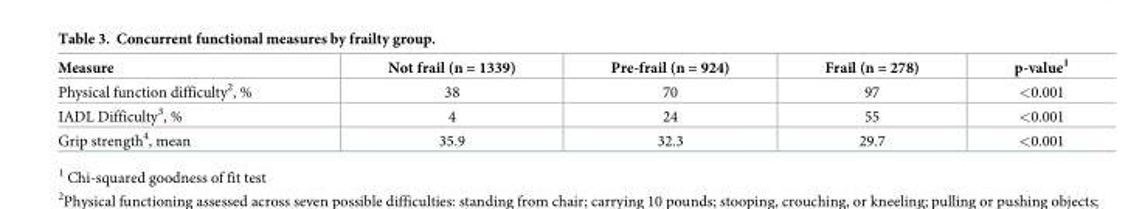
<table><thead><tr><td>Measure</td><td>Not frail (n = 1339)</td><td>Pre-frail (n = 924)</td><td>Frail (n = 278)</td><td>p-value<sup>1</sup></td></tr></thead><tbody><tr><td>Physical function difficulty<sup>2</sup>, %</td><td>38</td><td>70</td><td>97</td><td>&lt;0.001</td></tr><tr><td>IADL Difficulty<sup>3</sup>, %</td><td>4</td><td>24</td><td>55</td><td>&lt;0.001</td></tr><tr><td>Grip strength<sup>4</sup>, mean</td><td>35.9</td><td>32.3</td><td>29.7</td><td>&lt;0.001</td></tr></tbody></table>